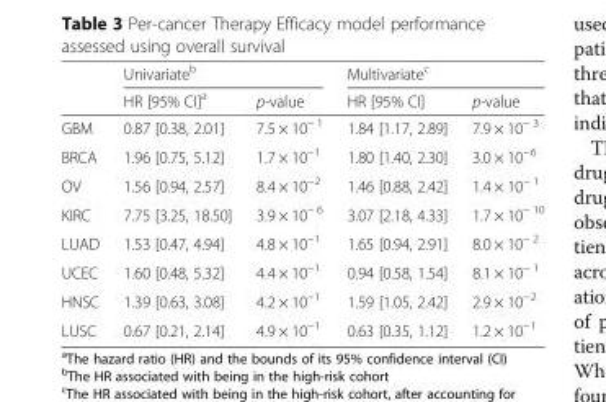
<table><thead><tr><td rowspan="2"></td><td colspan="2">Univariate<sup>b</sup></td><td colspan="2">Multivariate<sup>c</sup></td></tr><tr><td>HR [95% CI]<sup>a</sup></td><td>p-value</td><td>HR [95% CI]</td><td>p-value</td></tr></thead><tbody><tr><td>GBM</td><td>0.87 [0.38, 2.01]</td><td>7.5 × 10<sup>− 1</sup></td><td>1.84 [1.17, 2.89]</td><td>7.9 × 10<sup>− 3</sup></td></tr><tr><td>BRCA</td><td>1.96 [0.75, 5.12]</td><td>1.7 × 10<sup>−1</sup></td><td>1.80 [1.40, 2.30]</td><td>3.0 × 10<sup>−6</sup></td></tr><tr><td>OV</td><td>1.56 [0.94, 2.57]</td><td>8.4 × 10<sup>−2</sup></td><td>1.46 [0.88, 2.42]</td><td>1.4 × 10<sup>− 1</sup></td></tr><tr><td>KIRC</td><td>7.75 [3.25, 18.50]</td><td>3.9 × 10<sup>− 6</sup></td><td>3.07 [2.18, 4.33]</td><td>1.7 × 10<sup>− 10</sup></td></tr><tr><td>LUAD</td><td>1.53 [0.47, 4.94]</td><td>4.8 × 10<sup>−1</sup></td><td>1.65 [0.94, 2.91]</td><td>8.0 × 10<sup>− 2</sup></td></tr><tr><td>UCEC</td><td>1.60 [0.48, 5.32]</td><td>4.4 × 10<sup>−1</sup></td><td>0.94 [0.58, 1.54]</td><td>8.1 × 10<sup>− 1</sup></td></tr><tr><td>HNSC</td><td>1.39 [0.63, 3.08]</td><td>4.2 × 10<sup>−1</sup></td><td>1.59 [1.05, 2.42]</td><td>2.9 × 10<sup>−2</sup></td></tr><tr><td>LUSC</td><td>0.67 [0.21, 2.14]</td><td>4.9 × 10<sup>−1</sup></td><td>0.63 [0.35, 1.12]</td><td>1.2 × 10<sup>−1</sup></td></tr></tbody></table>